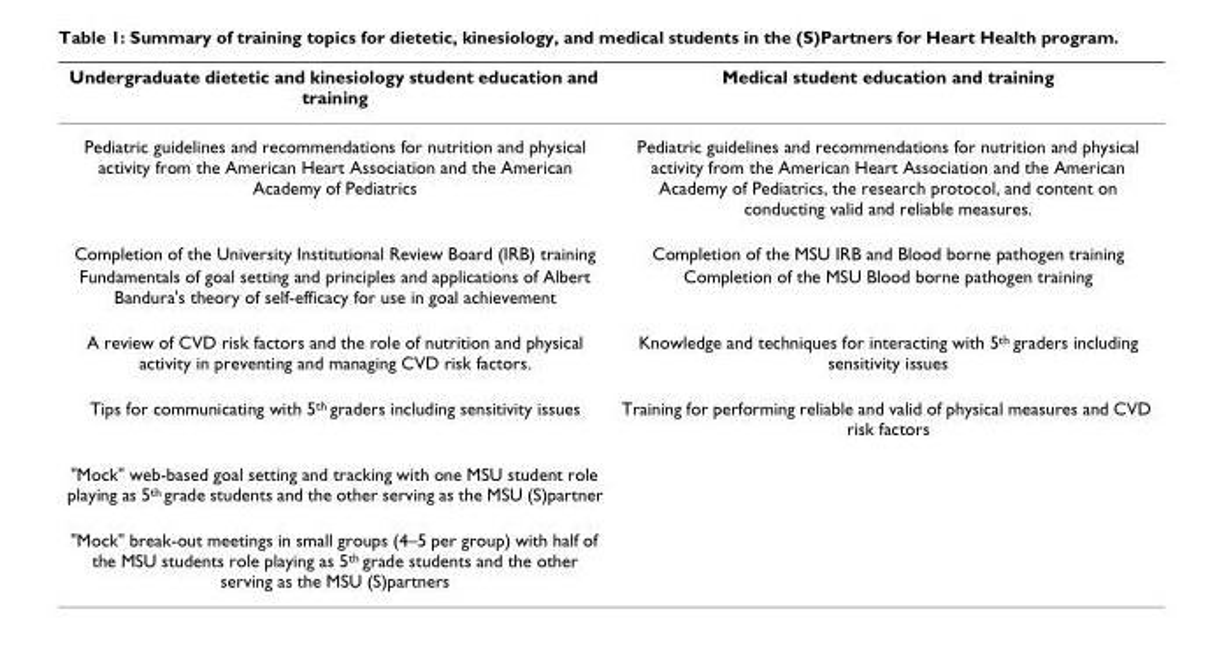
<table><thead><tr><td>Undergraduate dietetic and kinesiology student education and training</td><td>Medical student education and training</td></tr></thead><tbody><tr><td>Pediatric guidelines and recommendations for nutrition and physical activity from the American Heart Association and the American Academy of Pediatrics</td><td>Pediatric guidelines and recommendations for nutrition and physical activity from the American Heart Association and the American Academy of Pediatrics, the research protocol, and content on conducting valid and reliable measures.</td></tr><tr><td>Completion of the University Institutional Review Board (IRB) training</td><td>Completion of the MSU IRB and Blood borne pathogen training</td></tr><tr><td>Fundamentals of goal setting and principles and applications of Albert Bandura&#x27;s theory of self-efficacy for use in goal achievement</td><td>Completion of the MSU Blood borne pathogen training</td></tr><tr><td>A review of CVD risk factors and the role of nutrition and physical activity in preventing and managing CVD risk factors.</td><td>Knowledge and techniques for interacting with 5<sup>th</sup> graders including sensitivity issues</td></tr><tr><td>Tips for communicating with 5<sup>th</sup> graders including sensitivity issues</td><td>Training for performing reliable and valid of physical measures and CVD risk factors</td></tr><tr><td colspan="2">&quot;Mock&quot; web-based goal setting and tracking with one MSU student role playing as 5<sup>th</sup> grade students and the other serving as the MSU (S)partner</td></tr><tr><td>&quot;Mock&quot; break-out meetings in small groups (4–5 per group) with half of the MSU students role playing as 5<sup>th</sup> grade students and the other serving as the MSU (S)partners</td><td></td></tr></tbody></table>